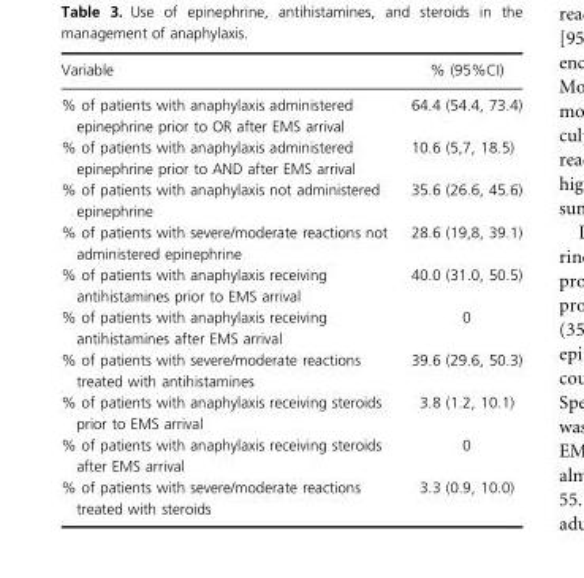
<table><thead><tr><td>Variable</td><td>% (95%CI)</td></tr></thead><tbody><tr><td>% of patients with anaphylaxis administered epinephrine prior to OR after EMS arrival</td><td>64.4 (54.4, 73.4)</td></tr><tr><td>% of patients with anaphylaxis administered epinephrine prior to AND after EMS arrival</td><td>10.6 (5,7, 18.5)</td></tr><tr><td>% of patients with anaphylaxis not administered epinephrine</td><td>35.6 (26.6, 45.6)</td></tr><tr><td>% of patients with severe/moderate reactions not administered epinephrine</td><td>28.6 (19,8, 39.1)</td></tr><tr><td>% of patients with anaphylaxis receiving antihistamines prior to EMS arrival</td><td>40.0 (31.0, 50.5)</td></tr><tr><td>% of patients with anaphylaxis receiving antihistamines after EMS arrival</td><td>0</td></tr><tr><td>% of patients with severe/moderate reactions treated with antihistamines</td><td>39.6 (29.6, 50.3)</td></tr><tr><td>% of patients with anaphylaxis receiving steroids prior to EMS arrival</td><td>3.8 (1.2, 10.1)</td></tr><tr><td>% of patients with anaphylaxis receiving steroids after EMS arrival</td><td>0</td></tr><tr><td>% of patients with severe/moderate reactions treated with steroids</td><td>3.3 (0.9, 10.0)</td></tr></tbody></table>